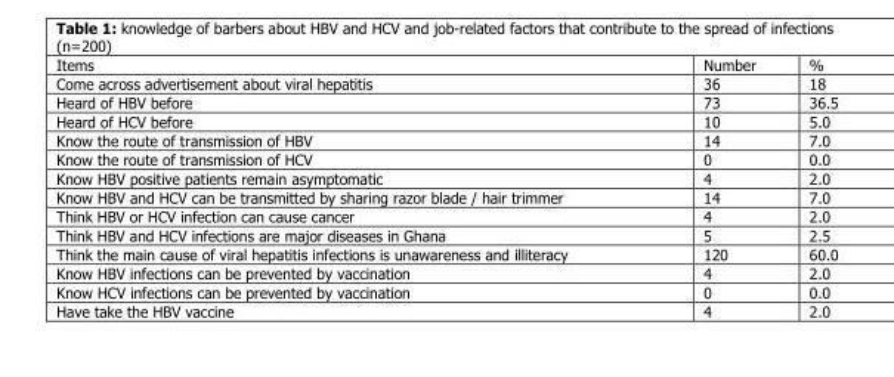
<table><thead><tr><td>Items</td><td>Number</td><td>%</td></tr></thead><tbody><tr><td>Come across advertisement about viral hepatitis</td><td>36</td><td>18</td></tr><tr><td>Heard of HBV before</td><td>73</td><td>36.5</td></tr><tr><td>Heard of HCV before</td><td>10</td><td>5.0</td></tr><tr><td>Know the route of transmission of HBV</td><td>14</td><td>7.0</td></tr><tr><td>Know the route of transmission of HCV</td><td>0</td><td>0.0</td></tr><tr><td>Know HBV positive patients remain asymptomatic</td><td>4</td><td>2.0</td></tr><tr><td>Know HBV and HCV can be transmitted by sharing razor blade / hair trimmer</td><td>14</td><td>7.0</td></tr><tr><td>Think HBV or HCV infection can cause cancer</td><td>4</td><td>2.0</td></tr><tr><td>Think HBV and HCV infections are major diseases in Ghana</td><td>5</td><td>2.5</td></tr><tr><td>Think the main cause of viral hepatitis infections is unawareness and illiteracy</td><td>120</td><td>60.0</td></tr><tr><td>Know HBV infections can be prevented by vaccination</td><td>4</td><td>2.0</td></tr><tr><td>Know HCV infections can be prevented by vaccination</td><td>0</td><td>0.0</td></tr><tr><td>Have take the HBV vaccine</td><td>4</td><td>2.0</td></tr></tbody></table>